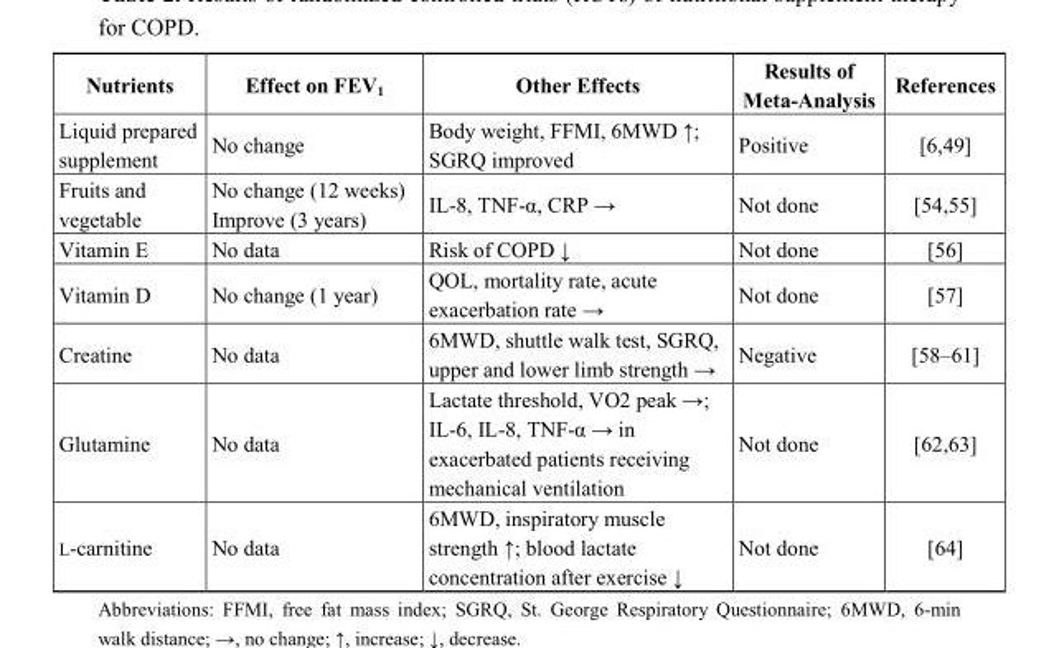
<table><thead><tr><td>Nutrients</td><td>Effect on FEV<sub>1</sub></td><td>Other Effects</td><td>Results of Meta-Analysis</td><td>References</td></tr></thead><tbody><tr><td>Liquid prepared supplement</td><td>No change</td><td>Body weight, FFMI, 6MWD ↑; SGRQ improved</td><td>Positive</td><td>[6,49]</td></tr><tr><td>Fruits and vegetable</td><td>No change (12 weeks) Improve (3 years)</td><td>IL-8, TNF-α, CRP →</td><td>Not done</td><td>[54,55]</td></tr><tr><td>Vitamin E</td><td>No data</td><td>Risk of COPD ↓</td><td>Not done</td><td>[56]</td></tr><tr><td>Vitamin D</td><td>No change (1 year)</td><td>QOL, mortality rate, acute exacerbation rate →</td><td>Not done</td><td>[57]</td></tr><tr><td>Creatine</td><td>No data</td><td>6MWD, shuttle walk test, SGRQ, upper and lower limb strength →</td><td>Negative</td><td>[58–61]</td></tr><tr><td>Glutamine</td><td>No data</td><td>Lactate threshold, VO2 peak →; IL-6, IL-8, TNF-α → in exacerbated patients receiving mechanical ventilation</td><td>Not done</td><td>[62,63]</td></tr><tr><td>L-carnitine</td><td>No data</td><td>6MWD, inspiratory muscle strength ↑; blood lactate concentration after exercise ↓</td><td>Not done</td><td>[64]</td></tr></tbody></table>